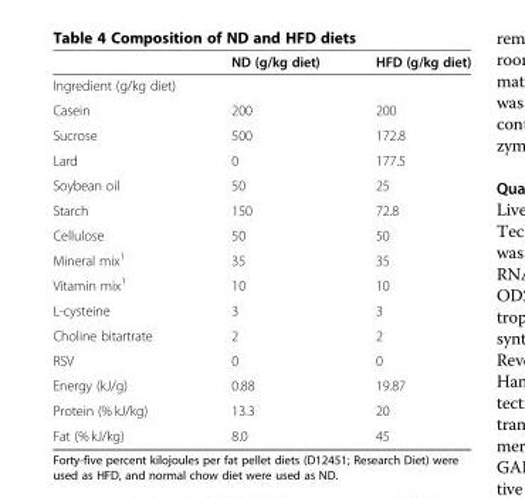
<table><thead><tr><td></td><td>ND (g/kg diet)</td><td>HFD (g/kg diet)</td></tr></thead><tbody><tr><td colspan="3">Ingredient (g/kg diet)</td></tr><tr><td>Casein</td><td>200</td><td>200</td></tr><tr><td>Sucrose</td><td>500</td><td>172.8</td></tr><tr><td>Lard</td><td>0</td><td>177.5</td></tr><tr><td>Soybean oil</td><td>50</td><td>25</td></tr><tr><td>Starch</td><td>150</td><td>72.8</td></tr><tr><td>Cellulose</td><td>50</td><td>50</td></tr><tr><td>Mineral mix<sup>1</sup></td><td>35</td><td>35</td></tr><tr><td>Vitamin mix<sup>1</sup></td><td>10</td><td>10</td></tr><tr><td>L-cysteine</td><td>3</td><td>3</td></tr><tr><td>Choline bitartrate</td><td>2</td><td>2</td></tr><tr><td>RSV</td><td>0</td><td>0</td></tr><tr><td>Energy (kJ/g)</td><td>0.88</td><td>19.87</td></tr><tr><td>Protein (% kJ/kg)</td><td>13.3</td><td>20</td></tr><tr><td>Fat (% kJ/kg)</td><td>8.0</td><td>45</td></tr></tbody></table>